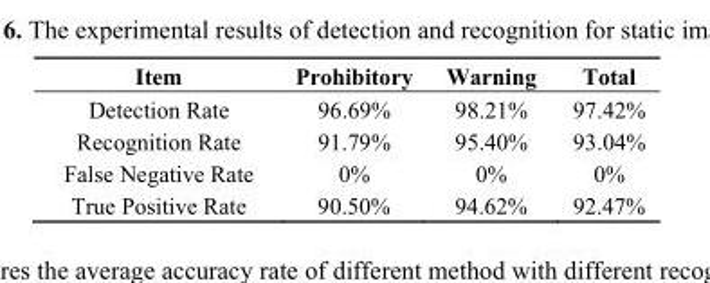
<table><thead><tr><td>Item</td><td>Prohibitory</td><td>Warning</td><td>Total</td></tr></thead><tbody><tr><td>Detection Rate</td><td>96.69%</td><td>98.21%</td><td>97.42%</td></tr><tr><td>Recognition Rate</td><td>91.79%</td><td>95.40%</td><td>93.04%</td></tr><tr><td>False Negative Rate</td><td>0%</td><td>0%</td><td>0%</td></tr><tr><td>True Positive Rate</td><td>90.50%</td><td>94.62%</td><td>92.47%</td></tr></tbody></table>